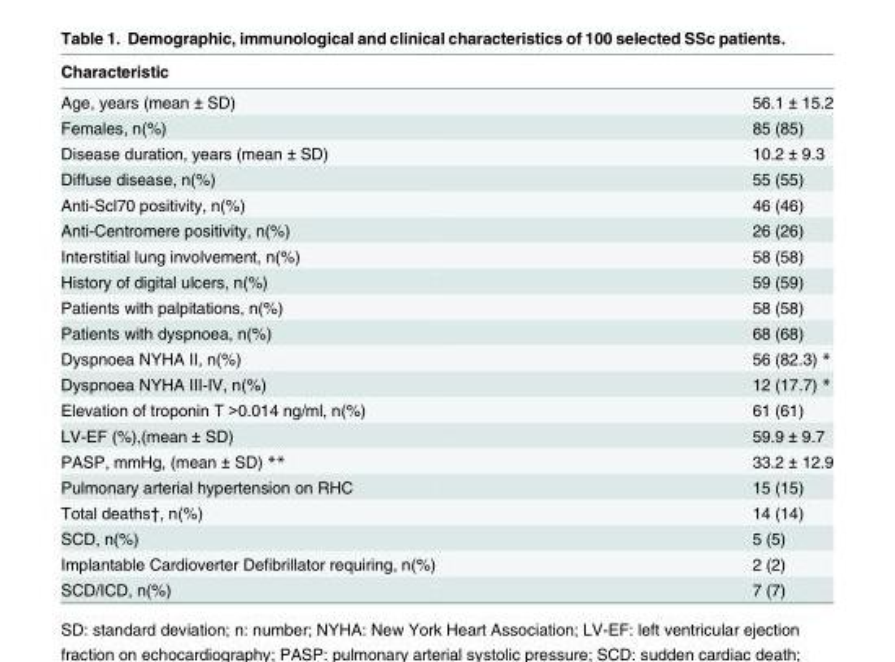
<table><thead><tr><td>Characteristic</td><td></td></tr></thead><tbody><tr><td>Age, years (mean ± SD)</td><td>56.1 ± 15.2</td></tr><tr><td>Females, n(%)</td><td>85 (85)</td></tr><tr><td>Disease duration, years (mean ± SD)</td><td>10.2 ± 9.3</td></tr><tr><td>Diffuse disease, n(%)</td><td>55 (55)</td></tr><tr><td>Anti-Scl70 positivity, n(%)</td><td>46 (46)</td></tr><tr><td>Anti-Centromere positivity, n(%)</td><td>26 (26)</td></tr><tr><td>Interstitial lung involvement, n(%)</td><td>58 (58)</td></tr><tr><td>History of digital ulcers, n(%)</td><td>59 (59)</td></tr><tr><td>Patients with palpitations, n(%)</td><td>58 (58)</td></tr><tr><td>Patients with dyspnoea, n(%)</td><td>68 (68)</td></tr><tr><td>Dyspnoea NYHA II, n(%)</td><td>56 (82.3) *</td></tr><tr><td>Dyspnoea NYHA III-IV, n(%)</td><td>12 (17.7) *</td></tr><tr><td>Elevation of troponin T &gt;0.014 ng/ml, n(%)</td><td>61 (61)</td></tr><tr><td>LV-EF (%),(mean ± SD)</td><td>59.9 ± 9.7</td></tr><tr><td>PASP, mmHg, (mean ± SD) **</td><td>33.2 ± 12.9</td></tr><tr><td>Pulmonary arterial hypertension on RHC</td><td>15 (15)</td></tr><tr><td>Total deaths†, n(%)</td><td>14 (14)</td></tr><tr><td>SCD, n(%)</td><td>5 (5)</td></tr><tr><td>Implantable Cardioverter Defibrillator requiring, n(%)</td><td>2 (2)</td></tr><tr><td>SCD/ICD, n(%)</td><td>7 (7)</td></tr></tbody></table>